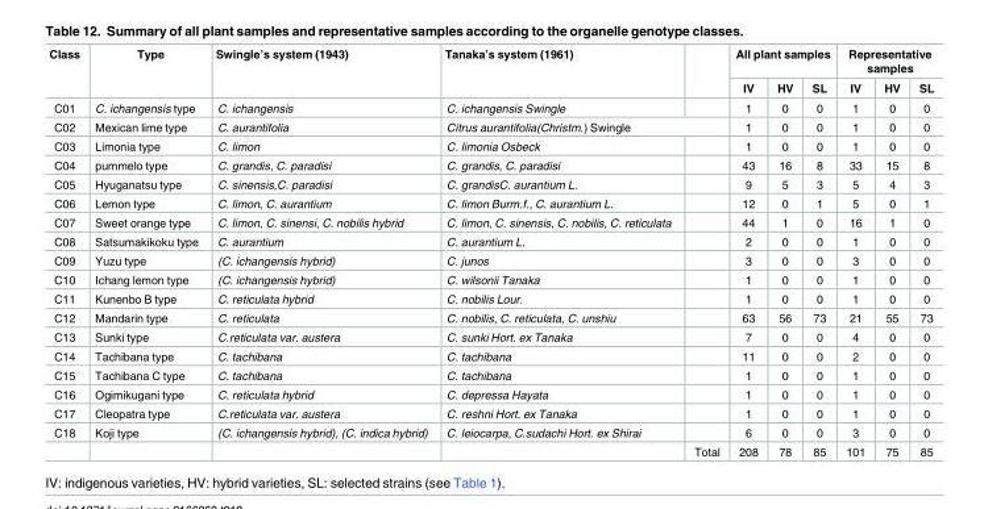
<table><thead><tr><td rowspan="2">Class</td><td rowspan="2">Type</td><td rowspan="2">Swingle’s system (1943)</td><td rowspan="2">Tanaka’s system (1961)</td><td rowspan="2"></td><td colspan="3">All plant samples</td><td colspan="3">Representative samples</td></tr><tr><td>IV</td><td>HV</td><td>SL</td><td>IV</td><td>HV</td><td>SL</td></tr></thead><tbody><tr><td>C01</td><td>C. ichangensis type</td><td>C. ichangensis</td><td>C. ichangensis Swingle</td><td></td><td>1</td><td>0</td><td>0</td><td>1</td><td>0</td><td>0</td></tr><tr><td>C02</td><td>Mexican lime type</td><td>C. aurantifolia</td><td colspan="2">Citrus aurantifolia(Christm.) Swingle</td><td>1</td><td>0</td><td>0</td><td>1</td><td>0</td><td>0</td></tr><tr><td>C03</td><td>Limonia type</td><td>C. limon</td><td>C. limonia Osbeck</td><td></td><td>1</td><td>0</td><td>0</td><td>1</td><td>0</td><td>0</td></tr><tr><td>C04</td><td>pummelo type</td><td>C. grandis, C. paradisi</td><td>C. grandis, C. paradisi</td><td></td><td>43</td><td>16</td><td>8</td><td>33</td><td>15</td><td>8</td></tr><tr><td>C05</td><td>Hyuganatsu type</td><td>C. sinensis,C. paradisi</td><td>C. grandisC. aurantium L.</td><td></td><td>9</td><td>5</td><td>3</td><td>5</td><td>4</td><td>3</td></tr><tr><td>C06</td><td>Lemon type</td><td>C. limon, C. aurantium</td><td>C. limon Burm.f., C. aurantium L.</td><td></td><td>12</td><td>0</td><td>1</td><td>5</td><td>0</td><td>1</td></tr><tr><td>C07</td><td>Sweet orange type</td><td>C. limon, C. sinensi, C. nobilis hybrid</td><td>C. limon, C. sinensis, C. nobilis, C. reticulata</td><td></td><td>44</td><td>1</td><td>0</td><td>16</td><td>1</td><td>0</td></tr><tr><td>C08</td><td>Satsumakikoku type</td><td>C. aurantium</td><td>C. aurantium L.</td><td></td><td>2</td><td>0</td><td>0</td><td>1</td><td>0</td><td>0</td></tr><tr><td>C09</td><td>Yuzu type</td><td>(C. ichangensis hybrid)</td><td>C. junos</td><td></td><td>3</td><td>0</td><td>0</td><td>3</td><td>0</td><td>0</td></tr><tr><td>C10</td><td>Ichang lemon type</td><td>(C. ichangensis hybrid)</td><td>C. wilsonii Tanaka</td><td></td><td>1</td><td>0</td><td>0</td><td>1</td><td>0</td><td>0</td></tr><tr><td>C11</td><td>Kunenbo B type</td><td>C. reticulata hybrid</td><td>C. nobilis Lour.</td><td></td><td>1</td><td>0</td><td>0</td><td>1</td><td>0</td><td>0</td></tr><tr><td>C12</td><td>Mandarin type</td><td>C. reticulata</td><td>C. nobilis, C. reticulata, C. unshiu</td><td></td><td>63</td><td>56</td><td>73</td><td>21</td><td>55</td><td>73</td></tr><tr><td>C13</td><td>Sunki type</td><td>C.reticulata var. austera</td><td>C. sunki Hort. ex Tanaka</td><td></td><td>7</td><td>0</td><td>0</td><td>4</td><td>0</td><td>0</td></tr><tr><td>C14</td><td>Tachibana type</td><td>C. tachibana</td><td>C. tachibana</td><td></td><td>11</td><td>0</td><td>0</td><td>2</td><td>0</td><td>0</td></tr><tr><td>C15</td><td>Tachibana C type</td><td>C. tachibana</td><td>C. tachibana</td><td></td><td>1</td><td>0</td><td>0</td><td>1</td><td>0</td><td>0</td></tr><tr><td>C16</td><td>Ogimikugani type</td><td>C. reticulata hybrid</td><td>C. depressa Hayata</td><td></td><td>1</td><td>0</td><td>0</td><td>1</td><td>0</td><td>0</td></tr><tr><td>C17</td><td>Cleopatra type</td><td>C.reticulata var. austera</td><td>C. reshni Hort. ex Tanaka</td><td></td><td>1</td><td>0</td><td>0</td><td>1</td><td>0</td><td>0</td></tr><tr><td rowspan="2">C18</td><td>Koji type</td><td>(C. ichangensis hybrid), (C. indica hybrid)</td><td>C. leiocarpa, C.sudachi Hort. ex Shirai</td><td></td><td>6</td><td>0</td><td>0</td><td>3</td><td>0</td><td>0</td></tr><tr><td></td><td></td><td></td><td>Total</td><td>208</td><td>78</td><td>85</td><td>101</td><td>75</td><td>85</td></tr></tbody></table>